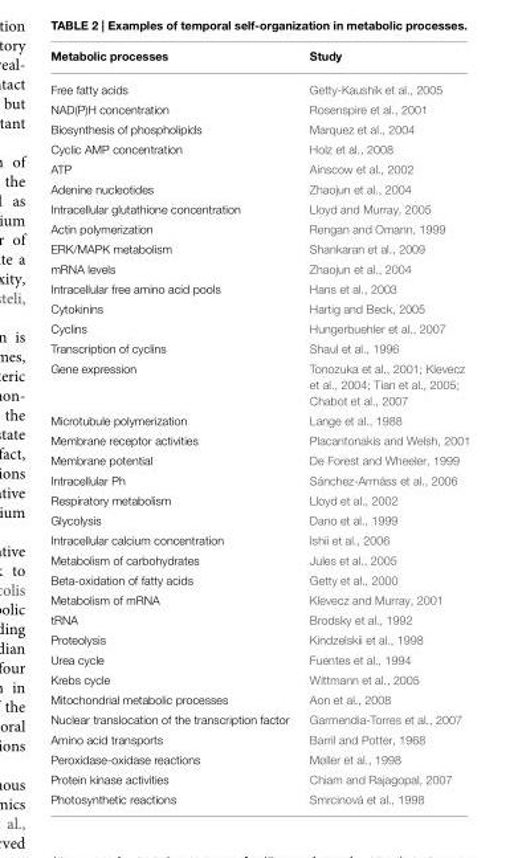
<table><thead><tr><td>Metabolic processes</td><td>Study</td></tr></thead><tbody><tr><td>Free fatty acids</td><td>Getty-Kaushik et al., 2005</td></tr><tr><td>NAD(P)H concentration</td><td>Rosenspire et al., 2001</td></tr><tr><td>Biosynthesis of phospholipids</td><td>Marquez et al., 2004</td></tr><tr><td>Cyclic AMP concentration</td><td>Holz et al., 2008</td></tr><tr><td>ATP</td><td>Ainscow et al., 2002</td></tr><tr><td>Adenine nucleotides</td><td>Zhaojun et al., 2004</td></tr><tr><td>Intracellular glutathione concentration</td><td>Lloyd and Murray, 2005</td></tr><tr><td>Actin polymerization</td><td>Rengan and Omann, 1999</td></tr><tr><td>ERK/MAPK metabolism</td><td>Shankaran et al., 2009</td></tr><tr><td>mRNA levels</td><td>Zhaojun et al., 2004</td></tr><tr><td>Intracellular free amino acid pools</td><td>Hans et al., 2003</td></tr><tr><td>Cytokinins</td><td>Hartig and Beck, 2005</td></tr><tr><td>Cyclins</td><td>Hungerbuehler et al., 2007</td></tr><tr><td>Transcription of cyclins</td><td>Shaul et al., 1996</td></tr><tr><td>Gene expression</td><td>Tonozuka et al., 2001; Klevecz et al., 2004; Tian et al., 2005; Chabot et al., 2007</td></tr><tr><td>Microtubule polymerization</td><td>Lange et al., 1988</td></tr><tr><td>Membrane receptor activities</td><td>Placantonakis and Welsh, 2001</td></tr><tr><td>Membrane potential</td><td>De Forest and Wheeler, 1999</td></tr><tr><td>Intracellular Ph</td><td>Sánchez-Armáss et al., 2006</td></tr><tr><td>Respiratory metabolism</td><td>Lloyd et al., 2002</td></tr><tr><td>Glycolysis</td><td>Dano et al., 1999</td></tr><tr><td>Intracellular calcium concentration</td><td>Ishii et al., 2006</td></tr><tr><td>Metabolism of carbohydrates</td><td>Jules et al., 2005</td></tr><tr><td>Beta-oxidation of fatty acids</td><td>Getty et al., 2000</td></tr><tr><td>Metabolism of mRNA</td><td>Klevecz and Murray, 2001</td></tr><tr><td>tRNA</td><td>Brodsky et al., 1992</td></tr><tr><td>Proteolysis</td><td>Kindzelskii et al., 1998</td></tr><tr><td>Urea cycle</td><td>Fuentes et al., 1994</td></tr><tr><td>Krebs cycle</td><td>Wittmann et al., 2005</td></tr><tr><td>Mitochondrial metabolic processes</td><td>Aon et al., 2008</td></tr><tr><td>Nuclear translocation of the transcription factor</td><td>Garmendia-Torres et al., 2007</td></tr><tr><td>Amino acid transports</td><td>Barril and Potter, 1968</td></tr><tr><td>Peroxidase-oxidase reactions</td><td>Møller et al., 1998</td></tr><tr><td>Protein kinase activities</td><td>Chiam and Rajagopal, 2007</td></tr><tr><td>Photosynthetic reactions</td><td>Smrcinová et al., 1998</td></tr></tbody></table>